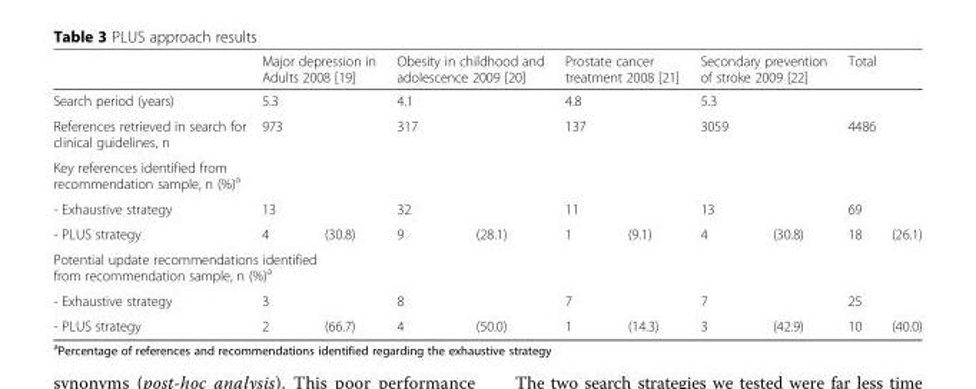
<table><thead><tr><td rowspan="2">Search period (years)</td><td colspan="2">Major depression in Adults 2008 [19]</td><td colspan="2">Obesity in childhood and adolescence 2009 [20]</td><td colspan="2">Prostate cancer treatment 2008 [21]</td><td colspan="2">Secondary prevention of stroke 2009 [22]</td><td colspan="2">Total</td></tr><tr><td>5.3</td><td></td><td>4.1</td><td></td><td>4.8</td><td></td><td>5.3</td><td></td><td></td><td></td></tr></thead><tbody><tr><td>References retrieved in search for clinical guidelines, n</td><td>973</td><td></td><td>317</td><td></td><td>137</td><td></td><td>3059</td><td></td><td>4486</td><td></td></tr><tr><td colspan="11">Key references identified from recommendation sample, n (%)<sup>a</sup></td></tr><tr><td>- Exhaustive strategy</td><td>13</td><td></td><td>32</td><td></td><td>11</td><td></td><td>13</td><td></td><td>69</td><td></td></tr><tr><td>- PLUS strategy</td><td>4</td><td>(30.8)</td><td>9</td><td>(28.1)</td><td>1</td><td>(9.1)</td><td>4</td><td>(30.8)</td><td>18</td><td>(26.1)</td></tr><tr><td colspan="11">Potential update recommendations identified from recommendation sample, n (%)<sup>a</sup></td></tr><tr><td>- Exhaustive strategy</td><td>3</td><td></td><td>8</td><td></td><td>7</td><td></td><td>7</td><td></td><td>25</td><td></td></tr><tr><td>- PLUS strategy</td><td>2</td><td>(66.7)</td><td>4</td><td>(50.0)</td><td>1</td><td>(14.3)</td><td>3</td><td>(42.9)</td><td>10</td><td>(40.0)</td></tr></tbody></table>